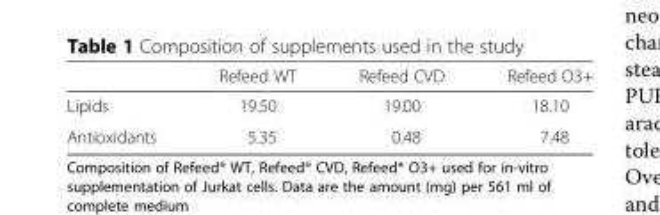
<table><thead><tr><td></td><td>Refeed WT</td><td>Refeed CVD</td><td>Refeed O3+</td></tr></thead><tbody><tr><td>Lipids</td><td>19.50</td><td>19.00</td><td>18.10</td></tr><tr><td>Antioxidants</td><td>5.35</td><td>0.48</td><td>7.48</td></tr></tbody></table>